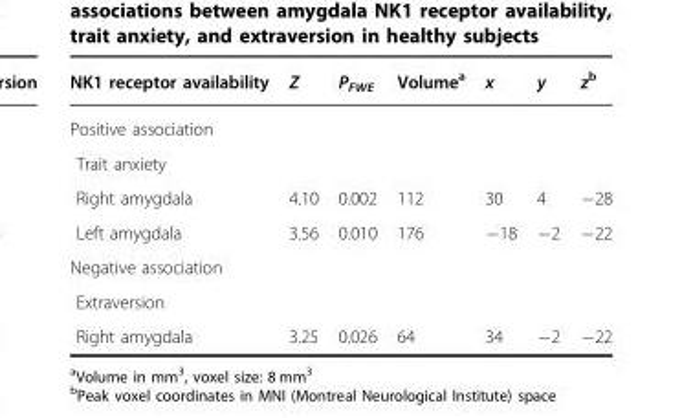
<table><thead><tr><td>NK1 receptor availability</td><td>Z</td><td>P<sub>FWE</sub></td><td>Volume<sup>a</sup></td><td>x</td><td>y</td><td>z<sup>b</sup></td></tr></thead><tbody><tr><td colspan="7">Positive association</td></tr><tr><td colspan="7">Trait anxiety</td></tr><tr><td>Right amygdala</td><td>4.10</td><td>0.002</td><td>112</td><td>30</td><td>4</td><td>−28</td></tr><tr><td>Left amygdala</td><td>3.56</td><td>0.010</td><td>176</td><td>−18</td><td>−2</td><td>−22</td></tr><tr><td colspan="7">Negative association</td></tr><tr><td colspan="7">Extraversion</td></tr><tr><td>Right amygdala</td><td>3.25</td><td>0.026</td><td>64</td><td>34</td><td>−2</td><td>−22</td></tr></tbody></table>